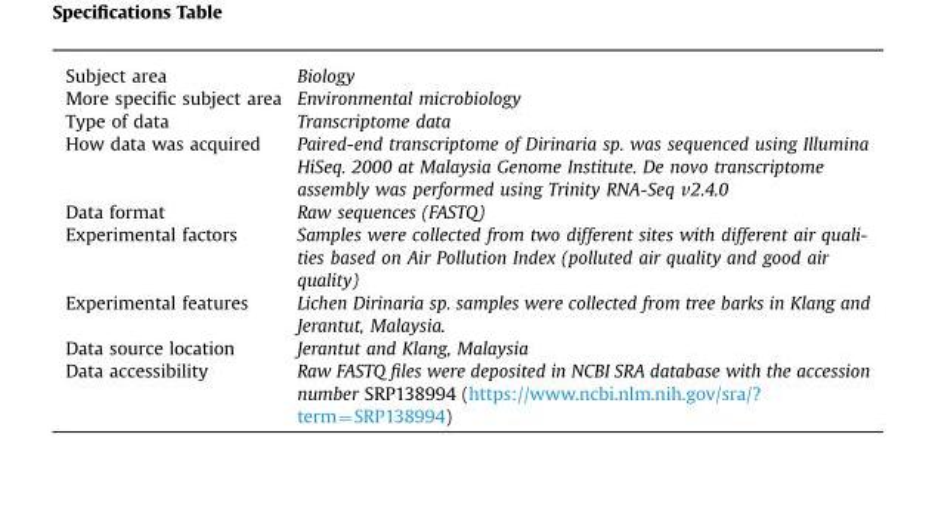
<table><tbody><tr><td>Subject area</td><td>Biology</td></tr><tr><td>More specific subject area</td><td>Environmental microbiology</td></tr><tr><td>Type of data</td><td>Transcriptome data</td></tr><tr><td>How data was acquired</td><td>Paired-end transcriptome of Dirinaria sp. was sequenced using Illumina HiSeq. 2000 at Malaysia Genome Institute. De novo transcriptome assembly was performed using Trinity RNA-Seq v2.4.0</td></tr><tr><td>Data format</td><td>Raw sequences (FASTQ)</td></tr><tr><td>Experimental factors</td><td>Samples were collected from two different sites with different air quali- ties based on Air Pollution Index (polluted air quality and good air quality)</td></tr><tr><td>Experimental features</td><td>Lichen Dirinaria sp. samples were collected from tree barks in Klang and Jerantut, Malaysia.</td></tr><tr><td>Data source location</td><td>Jerantut and Klang, Malaysia</td></tr><tr><td>Data accessibility</td><td>Raw FASTQ files were deposited in NCBI SRA database with the accession number SRP138994 (https://www.ncbi.nlm.nih.gov/sra/? term=SRP138994)</td></tr></tbody></table>